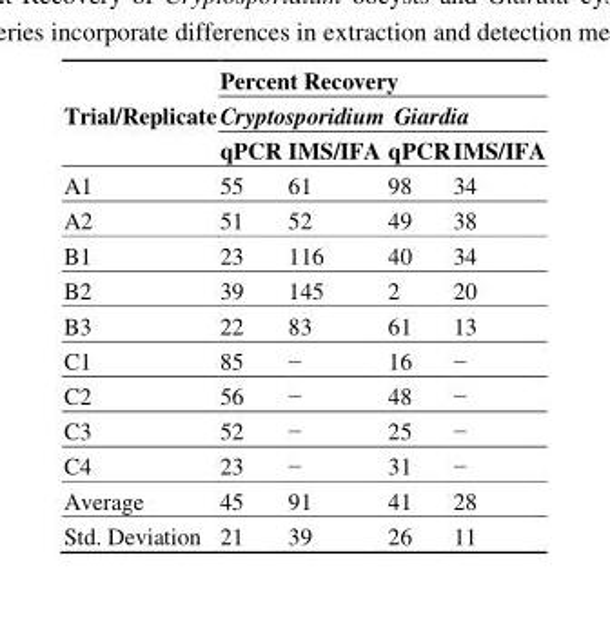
<table><thead><tr><td rowspan="3">Trial/Replicate</td><td colspan="4">Percent Recovery</td></tr><tr><td colspan="2">Cryptosporidium</td><td colspan="2">Giardia</td></tr><tr><td>qPCR</td><td>IMS/IFA</td><td>qPCR</td><td>IMS/IFA</td></tr></thead><tbody><tr><td>A1</td><td>55</td><td>61</td><td>98</td><td>34</td></tr><tr><td>A2</td><td>51</td><td>52</td><td>49</td><td>38</td></tr><tr><td>B1</td><td>23</td><td>116</td><td>40</td><td>34</td></tr><tr><td>B2</td><td>39</td><td>145</td><td>2</td><td>20</td></tr><tr><td>B3</td><td>22</td><td>83</td><td>61</td><td>13</td></tr><tr><td>C1</td><td>85</td><td>−</td><td>16</td><td>−</td></tr><tr><td>C2</td><td>56</td><td>−</td><td>48</td><td>−</td></tr><tr><td>C3</td><td>52</td><td>−</td><td>25</td><td>−</td></tr><tr><td>C4</td><td>23</td><td>−</td><td>31</td><td>−</td></tr><tr><td>Average</td><td>45</td><td>91</td><td>41</td><td>28</td></tr><tr><td>Std. Deviation</td><td>21</td><td>39</td><td>26</td><td>11</td></tr></tbody></table>